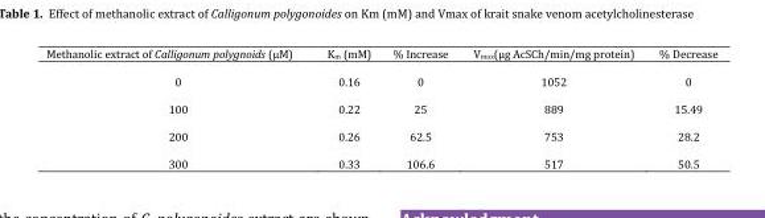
<table><thead><tr><td>Methanolic extract of Calligonum polygnoids (µM)</td><td>K<sub>m</sub> (mM)</td><td>% Increase</td><td>V<sub>max</sub>(µg AcSCh/min/mg protein)</td><td>% Decrease</td></tr></thead><tbody><tr><td>0 100 200 300</td><td>0.16 0.22 0.26 0.33</td><td>0 25 62.5 106.6</td><td>1052 889 753 517</td><td>0 15.49 28.2 50.5</td></tr></tbody></table>